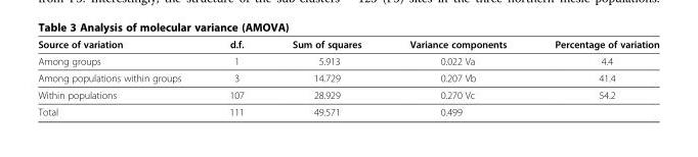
<table><thead><tr><td>Source of variation</td><td>d.f.</td><td>Sum of squares</td><td>Variance components</td><td>Percentage of variation</td></tr></thead><tbody><tr><td>Among groups</td><td>1</td><td>5.913</td><td>0.022 Va</td><td>4.4</td></tr><tr><td>Among populations within groups</td><td>3</td><td>14.729</td><td>0.207 Vb</td><td>41.4</td></tr><tr><td>Within populations</td><td>107</td><td>28.929</td><td>0.270 Vc</td><td>54.2</td></tr><tr><td>Total</td><td>111</td><td>49.571</td><td>0.499</td><td></td></tr></tbody></table>